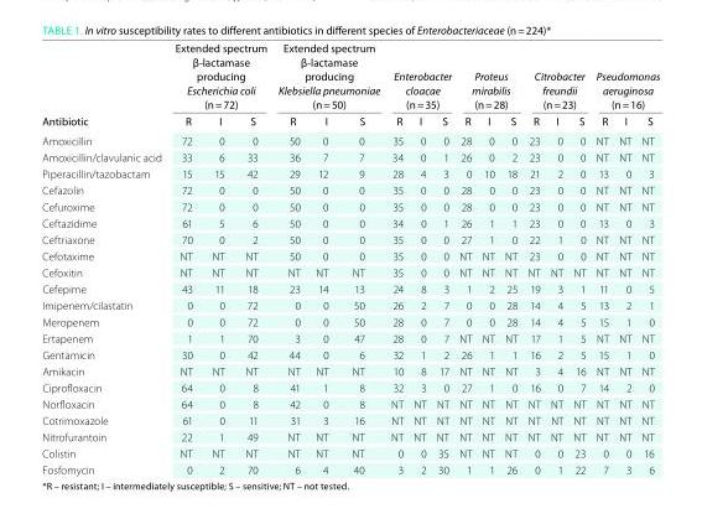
<table><thead><tr><td rowspan="2">Antibiotic</td><td colspan="3">Extended spectrum β-lactamase producing Escherichia coli (n = 72)</td><td colspan="3">Extended spectrum β-lactamase producing Klebsiella pneumoniae (n = 50)</td><td colspan="3">Enterobacter cloacae (n = 35)</td><td colspan="3">Proteus mirabilis (n = 28)</td><td colspan="3">Citrobacter freundii (n = 23)</td><td colspan="3">Pseudomonas aeruginosa (n = 16)</td></tr><tr><td>R</td><td>I</td><td>S</td><td>R</td><td>I</td><td>S</td><td>R</td><td>I</td><td>S</td><td>R</td><td>I</td><td>S</td><td>R</td><td>I</td><td>S</td><td>R</td><td>I</td><td>S</td></tr></thead><tbody><tr><td>Amoxicillin</td><td>72</td><td>0</td><td>0</td><td>50</td><td>0</td><td>0</td><td>35</td><td>0</td><td>0</td><td>28</td><td>0</td><td>0</td><td>23</td><td>0</td><td>0</td><td>NT</td><td>NT</td><td>NT</td></tr><tr><td>Amoxicillin/clavulanic acid</td><td>33</td><td>6</td><td>33</td><td>36</td><td>7</td><td>7</td><td>34</td><td>0</td><td>1</td><td>26</td><td>0</td><td>2</td><td>23</td><td>0</td><td>0</td><td>NT</td><td>NT</td><td>NT</td></tr><tr><td>Piperacillin/tazobactam</td><td>15</td><td>15</td><td>42</td><td>29</td><td>12</td><td>9</td><td>28</td><td>4</td><td>3</td><td>0</td><td>10</td><td>18</td><td>21</td><td>2</td><td>0</td><td>13</td><td>0</td><td>3</td></tr><tr><td>Cefazolin</td><td>72</td><td>0</td><td>0</td><td>50</td><td>0</td><td>0</td><td>35</td><td>0</td><td>0</td><td>28</td><td>0</td><td>0</td><td>23</td><td>0</td><td>0</td><td>NT</td><td>NT</td><td>NT</td></tr><tr><td>Cefuroxime</td><td>72</td><td>0</td><td>0</td><td>50</td><td>0</td><td>0</td><td>35</td><td>0</td><td>0</td><td>28</td><td>0</td><td>0</td><td>23</td><td>0</td><td>0</td><td>NT</td><td>NT</td><td>NT</td></tr><tr><td>Ceftazidime</td><td>61</td><td>5</td><td>6</td><td>50</td><td>0</td><td>0</td><td>34</td><td>0</td><td>1</td><td>26</td><td>1</td><td>1</td><td>23</td><td>0</td><td>0</td><td>13</td><td>0</td><td>3</td></tr><tr><td>Ceftriaxone</td><td>70</td><td>0</td><td>2</td><td>50</td><td>0</td><td>0</td><td>35</td><td>0</td><td>0</td><td>27</td><td>1</td><td>0</td><td>22</td><td>1</td><td>0</td><td>NT</td><td>NT</td><td>NT</td></tr><tr><td>Cefotaxime</td><td>NT</td><td>NT</td><td>NT</td><td>50</td><td>0</td><td>0</td><td>35</td><td>0</td><td>0</td><td>NT</td><td>NT</td><td>NT</td><td>23</td><td>0</td><td>0</td><td>NT</td><td>NT</td><td>NT</td></tr><tr><td>Cefoxitin</td><td>NT</td><td>NT</td><td>NT</td><td>NT</td><td>NT</td><td>NT</td><td>35</td><td>0</td><td>0</td><td>NT</td><td>NT</td><td>NT</td><td>NT</td><td>NT</td><td>NT</td><td>NT</td><td>NT</td><td>NT</td></tr><tr><td>Cefepime</td><td>43</td><td>11</td><td>18</td><td>23</td><td>14</td><td>13</td><td>24</td><td>8</td><td>3</td><td>1</td><td>2</td><td>25</td><td>19</td><td>3</td><td>1</td><td>11</td><td>0</td><td>5</td></tr><tr><td>Imipenem/cilastatin</td><td>0</td><td>0</td><td>72</td><td>0</td><td>0</td><td>50</td><td>26</td><td>2</td><td>7</td><td>0</td><td>0</td><td>28</td><td>14</td><td>4</td><td>5</td><td>13</td><td>2</td><td>1</td></tr><tr><td>Meropenem</td><td>0</td><td>0</td><td>72</td><td>0</td><td>0</td><td>50</td><td>28</td><td>0</td><td>7</td><td>0</td><td>0</td><td>28</td><td>14</td><td>4</td><td>5</td><td>15</td><td>1</td><td>0</td></tr><tr><td>Ertapenem</td><td>1</td><td>1</td><td>70</td><td>3</td><td>0</td><td>47</td><td>28</td><td>0</td><td>7</td><td>NT</td><td>NT</td><td>NT</td><td>17</td><td>1</td><td>5</td><td>NT</td><td>NT</td><td>NT</td></tr><tr><td>Gentamicin</td><td>30</td><td>0</td><td>42</td><td>44</td><td>0</td><td>6</td><td>32</td><td>1</td><td>2</td><td>26</td><td>1</td><td>1</td><td>16</td><td>2</td><td>5</td><td>15</td><td>1</td><td>0</td></tr><tr><td>Amikacin</td><td>NT</td><td>NT</td><td>NT</td><td>NT</td><td>NT</td><td>NT</td><td>10</td><td>8</td><td>17</td><td>NT</td><td>NT</td><td>NT</td><td>3</td><td>4</td><td>16</td><td>NT</td><td>NT</td><td>NT</td></tr><tr><td>Ciprofloxacin</td><td>64</td><td>0</td><td>8</td><td>41</td><td>1</td><td>8</td><td>32</td><td>3</td><td>0</td><td>27</td><td>1</td><td>0</td><td>16</td><td>0</td><td>7</td><td>14</td><td>2</td><td>0</td></tr><tr><td>Norfloxacin</td><td>64</td><td>0</td><td>8</td><td>42</td><td>0</td><td>8</td><td>NT</td><td>NT</td><td>NT</td><td>NT</td><td>NT</td><td>NT</td><td>NT</td><td>NT</td><td>NT</td><td>NT</td><td>NT</td><td>NT</td></tr><tr><td>Cotrimoxazole</td><td>61</td><td>0</td><td>11</td><td>31</td><td>3</td><td>16</td><td>NT</td><td>NT</td><td>NT</td><td>NT</td><td>NT</td><td>NT</td><td>NT</td><td>NT</td><td>NT</td><td>NT</td><td>NT</td><td>NT</td></tr><tr><td>Nitrofurantoin</td><td>22</td><td>1</td><td>49</td><td>NT</td><td>NT</td><td>NT</td><td>NT</td><td>NT</td><td>NT</td><td>NT</td><td>NT</td><td>NT</td><td>NT</td><td>NT</td><td>NT</td><td>NT</td><td>NT</td><td>NT</td></tr><tr><td>Colistin</td><td>NT</td><td>NT</td><td>NT</td><td>NT</td><td>NT</td><td>NT</td><td>0</td><td>0</td><td>35</td><td>NT</td><td>NT</td><td>NT</td><td>0</td><td>0</td><td>23</td><td>0</td><td>0</td><td>16</td></tr><tr><td>Fosfomycin</td><td>0</td><td>2</td><td>70</td><td>6</td><td>4</td><td>40</td><td>3</td><td>2</td><td>30</td><td>1</td><td>1</td><td>26</td><td>0</td><td>1</td><td>22</td><td>7</td><td>3</td><td>6</td></tr></tbody></table>